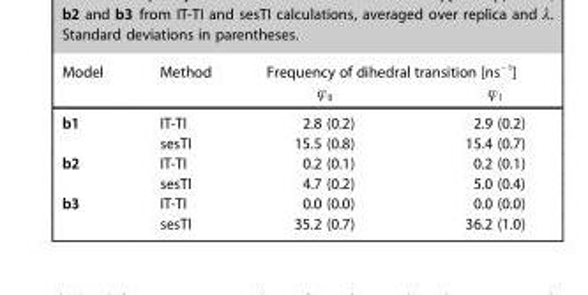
<table><thead><tr><td rowspan="2">Model</td><td rowspan="2">Method</td><td colspan="2">Frequency of dihedral transition [ns<sup>−1</sup>]</td></tr><tr><td>φ<sub>0</sub></td><td>φ<sub>1</sub></td></tr></thead><tbody><tr><td rowspan="2">b1</td><td>IT-TI</td><td>2.8 (0.2)</td><td>2.9 (0.2)</td></tr><tr><td>sesTI</td><td>15.5 (0.8)</td><td>15.4 (0.7)</td></tr><tr><td rowspan="2">b2</td><td>IT-TI</td><td>0.2 (0.1)</td><td>0.2 (0.1)</td></tr><tr><td>sesTI</td><td>4.7 (0.2)</td><td>5.0 (0.4)</td></tr><tr><td rowspan="2">b3</td><td>IT-TI</td><td>0.0 (0.0)</td><td>0.0 (0.0)</td></tr><tr><td>sesTI</td><td>35.2 (0.7)</td><td>36.2 (1.0)</td></tr></tbody></table>